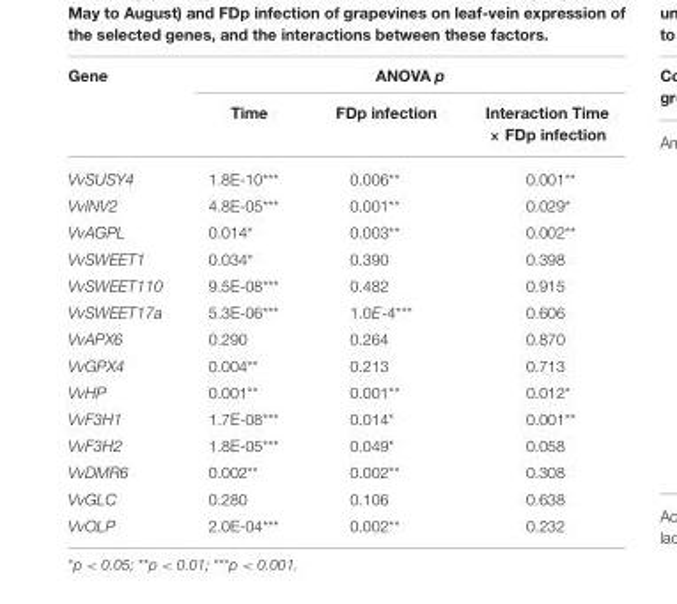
<table><thead><tr><td rowspan="2">Gene</td><td colspan="3">ANOVA p</td></tr><tr><td>Time</td><td>FDp infection</td><td>Interaction Time × FDp infection</td></tr></thead><tbody><tr><td>VvSUSY4</td><td>1.8E-10***</td><td>0.006**</td><td>0.001**</td></tr><tr><td>VvINV2</td><td>4.8E-05***</td><td>0.001**</td><td>0.029*</td></tr><tr><td>VvAGPL</td><td>0.014*</td><td>0.003**</td><td>0.002**</td></tr><tr><td>VvSWEET1</td><td>0.034*</td><td>0.390</td><td>0.398</td></tr><tr><td>VvSWEET110</td><td>9.5E-08***</td><td>0.482</td><td>0.915</td></tr><tr><td>VvSWEET17a</td><td>5.3E-06***</td><td>1.0E-4***</td><td>0.606</td></tr><tr><td>VvAPX6</td><td>0.290</td><td>0.264</td><td>0.870</td></tr><tr><td>VvGPX4</td><td>0.004**</td><td>0.213</td><td>0.713</td></tr><tr><td>VvHP</td><td>0.001**</td><td>0.001**</td><td>0.012*</td></tr><tr><td>VvF3H1</td><td>1.7E-08***</td><td>0.014*</td><td>0.001**</td></tr><tr><td>VvF3H2</td><td>1.8E-05***</td><td>0.049*</td><td>0.058</td></tr><tr><td>VvDMR6</td><td>0.002**</td><td>0.002**</td><td>0.308</td></tr><tr><td>VvGLC</td><td>0.280</td><td>0.106</td><td>0.638</td></tr><tr><td>VvOLP</td><td>2.0E-04***</td><td>0.002**</td><td>0.232</td></tr></tbody></table>